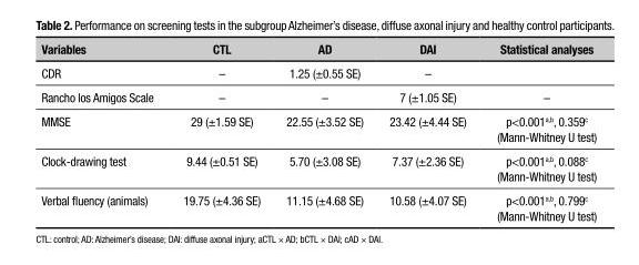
<table><thead><tr><td>Variables</td><td>CTL</td><td>AD</td><td>DAI</td><td>Statistical analyses</td></tr></thead><tbody><tr><td>CDR</td><td>–</td><td>1.25 (±0.55 SE)</td><td>–</td><td></td></tr><tr><td>Rancho los Amigos Scale</td><td>–</td><td>–</td><td>7 (±1.05 SE)</td><td>–</td></tr><tr><td>MMSE</td><td>29 (±1.59 SE)</td><td>22.55 (±3.52 SE)</td><td>23.42 (±4.44 SE)</td><td>p&lt;0.001<sup>a,b</sup>, 0.359<sup>c</sup> (Mann-Whitney U test)</td></tr><tr><td>Clock-drawing test</td><td>9.44 (±0.51 SE)</td><td>5.70 (±3.08 SE)</td><td>7.37 (±2.36 SE)</td><td>p&lt;0.001<sup>a,b</sup>, 0.088<sup>c</sup> (Mann-Whitney U test)</td></tr><tr><td>Verbal fluency (animals)</td><td>19.75 (±4.36 SE)</td><td>11.15 (±4.68 SE)</td><td>10.58 (±4.07 SE)</td><td>p&lt;0.001<sup>a,b</sup>, 0.799<sup>c</sup> (Mann-Whitney U test)</td></tr></tbody></table>